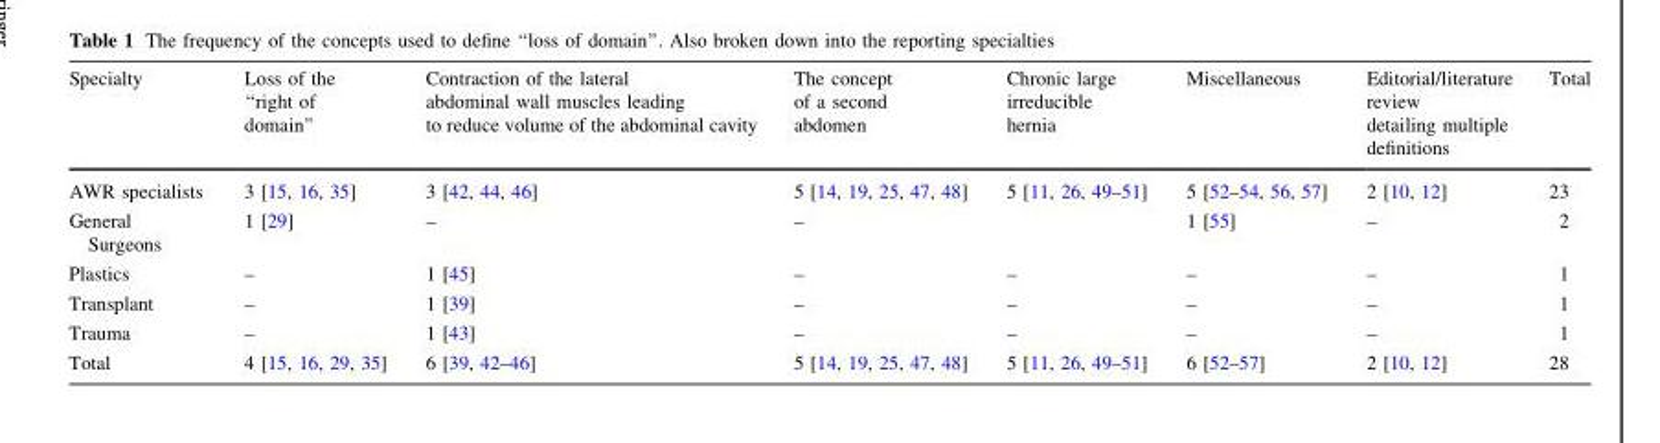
<table><thead><tr><td>Specialty</td><td>Loss of the ‘‘right of domain’’</td><td>Contraction of the lateral abdominal wall muscles leading to reduce volume of the abdominal cavity</td><td>The concept of a second abdomen</td><td>Chronic large irreducible hernia</td><td>Miscellaneous</td><td>Editorial/literature review detailing multiple definitions</td><td>Total</td></tr></thead><tbody><tr><td>AWR specialists</td><td>3 [15, 16, 35]</td><td>3 [42, 44, 46]</td><td>5 [14, 19, 25, 47, 48]</td><td>5 [11, 26, 49–51]</td><td>5 [52–54, 56, 57]</td><td>2 [10, 12]</td><td>23</td></tr><tr><td>General Surgeons</td><td>1 [29]</td><td>–</td><td>–</td><td></td><td>1 [55]</td><td>–</td><td>2</td></tr><tr><td>Plastics</td><td>–</td><td>1 [45]</td><td>–</td><td>–</td><td>–</td><td>–</td><td>1</td></tr><tr><td>Transplant</td><td>–</td><td>1 [39]</td><td>–</td><td>–</td><td>–</td><td>–</td><td>1</td></tr><tr><td>Trauma</td><td>–</td><td>1 [43]</td><td>–</td><td>–</td><td>–</td><td>–</td><td>1</td></tr><tr><td>Total</td><td>4 [15, 16, 29, 35]</td><td>6 [39, 42–46]</td><td>5 [14, 19, 25, 47, 48]</td><td>5 [11, 26, 49–51]</td><td>6 [52–57]</td><td>2 [10, 12]</td><td>28</td></tr></tbody></table>